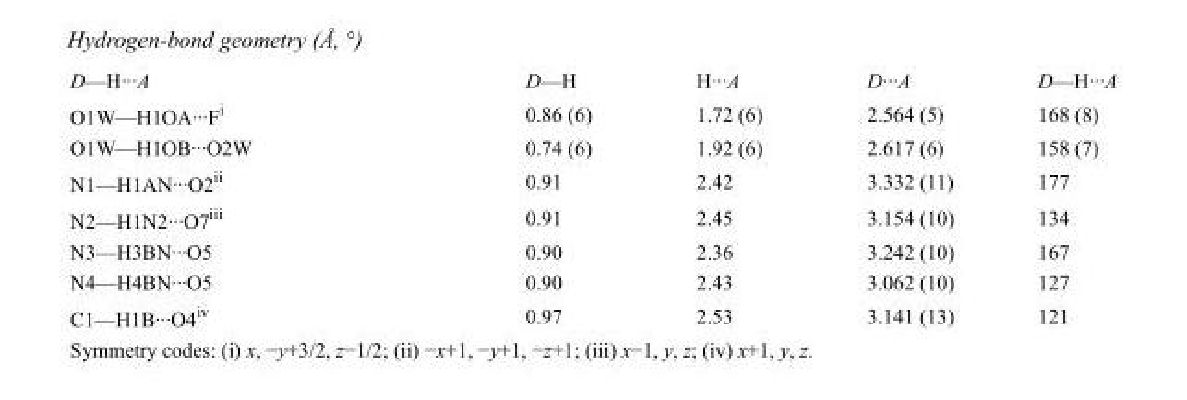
<table><tbody><tr><td>D—H···A</td><td>D—H</td><td>H···A</td><td>D···A</td><td>D—H···A</td></tr><tr><td>O1W—H1OA···F<sup>i</sup></td><td>0.86 (6)</td><td>1.72 (6)</td><td>2.564 (5)</td><td>168 (8)</td></tr><tr><td>O1W—H1OB···O2W</td><td>0.74 (6)</td><td>1.92 (6)</td><td>2.617 (6)</td><td>158 (7)</td></tr><tr><td>N1—H1AN···O2<sup>ii</sup></td><td>0.91</td><td>2.42</td><td>3.332 (11)</td><td>177</td></tr><tr><td>N2—H1N2···O7<sup>iii</sup></td><td>0.91</td><td>2.45</td><td>3.154 (10)</td><td>134</td></tr><tr><td>N3—H3BN···O5</td><td>0.90</td><td>2.36</td><td>3.242 (10)</td><td>167</td></tr><tr><td>N4—H4BN···O5</td><td>0.90</td><td>2.43</td><td>3.062 (10)</td><td>127</td></tr><tr><td>C1—H1B···O4<sup>iv</sup></td><td>0.97</td><td>2.53</td><td>3.141 (13)</td><td>121</td></tr></tbody></table>